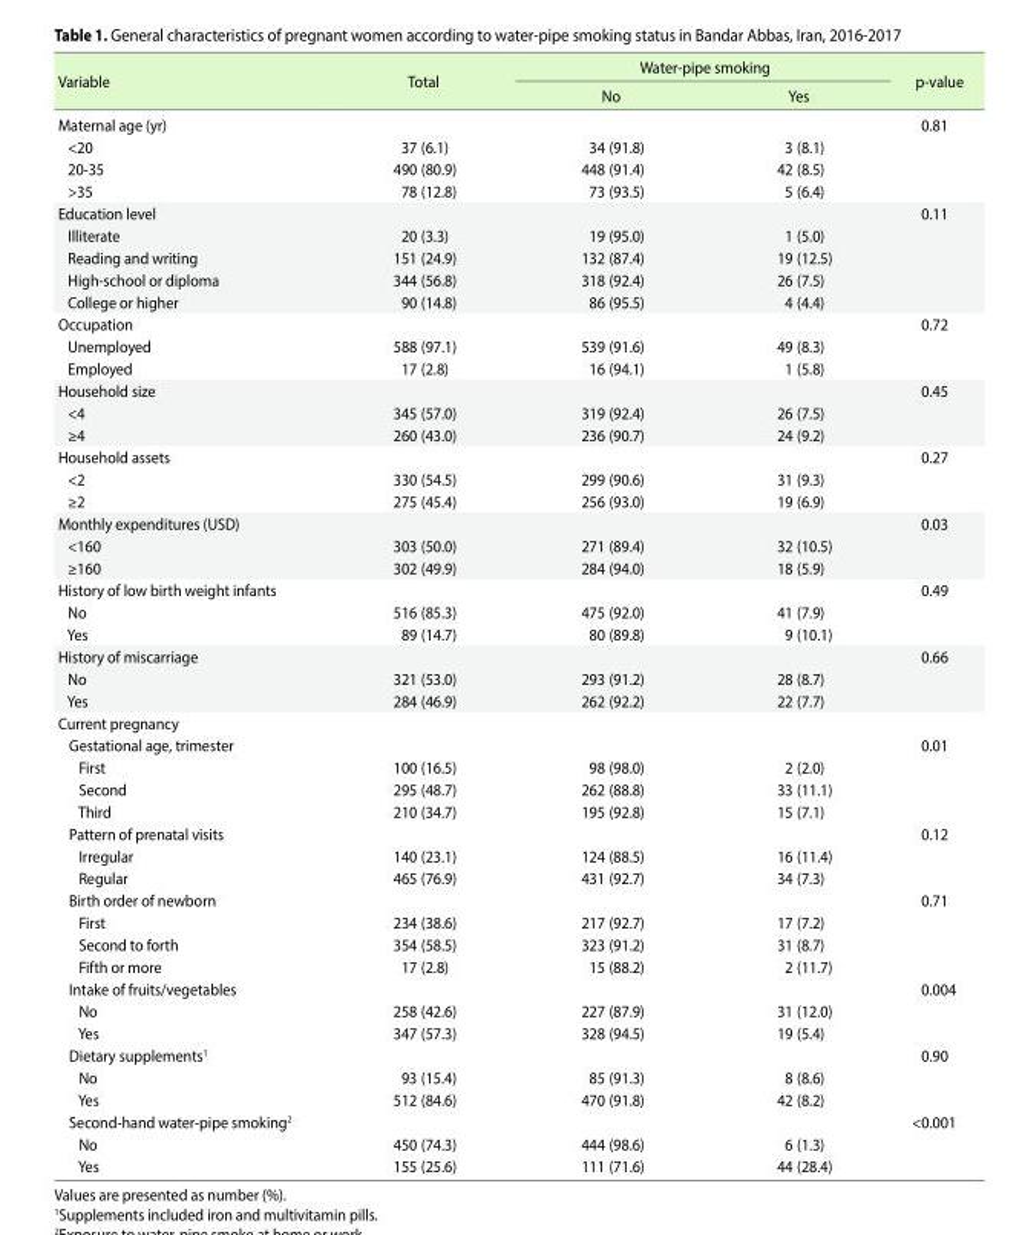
<table><thead><tr><td rowspan="2">Variable</td><td rowspan="2">Total</td><td colspan="2">Water-pipe smoking</td><td rowspan="2">p-value</td></tr><tr><td>No</td><td>Yes</td></tr></thead><tbody><tr><td>Maternal age (yr)</td><td></td><td></td><td></td><td>0.81</td></tr><tr><td>&lt;20</td><td>37 (6.1)</td><td>34 (91.8)</td><td>3 (8.1)</td><td></td></tr><tr><td>20-35</td><td>490 (80.9)</td><td>448 (91.4)</td><td>42 (8.5)</td><td></td></tr><tr><td>&gt;35</td><td>78 (12.8)</td><td>73 (93.5)</td><td>5 (6.4)</td><td></td></tr><tr><td>Education level</td><td></td><td></td><td></td><td>0.11</td></tr><tr><td>Illiterate</td><td>20 (3.3)</td><td>19 (95.0)</td><td>1 (5.0)</td><td></td></tr><tr><td>Reading and writing</td><td>151 (24.9)</td><td>132 (87.4)</td><td>19 (12.5)</td><td></td></tr><tr><td>High-school or diploma</td><td>344 (56.8)</td><td>318 (92.4)</td><td>26 (7.5)</td><td></td></tr><tr><td>College or higher</td><td>90 (14.8)</td><td>86 (95.5)</td><td>4 (4.4)</td><td></td></tr><tr><td>Occupation</td><td></td><td></td><td></td><td>0.72</td></tr><tr><td>Unemployed</td><td>588 (97.1)</td><td>539 (91.6)</td><td>49 (8.3)</td><td></td></tr><tr><td>Employed</td><td>17 (2.8)</td><td>16 (94.1)</td><td>1 (5.8)</td><td></td></tr><tr><td>Household size</td><td></td><td></td><td></td><td>0.45</td></tr><tr><td>&lt;4</td><td>345 (57.0)</td><td>319 (92.4)</td><td>26 (7.5)</td><td></td></tr><tr><td>≥4</td><td>260 (43.0)</td><td>236 (90.7)</td><td>24 (9.2)</td><td></td></tr><tr><td>Household assets</td><td></td><td></td><td></td><td>0.27</td></tr><tr><td>&lt;2</td><td>330 (54.5)</td><td>299 (90.6)</td><td>31 (9.3)</td><td></td></tr><tr><td>≥2</td><td>275 (45.4)</td><td>256 (93.0)</td><td>19 (6.9)</td><td></td></tr><tr><td>Monthly expenditures (USD)</td><td></td><td></td><td></td><td>0.03</td></tr><tr><td>&lt;160</td><td>303 (50.0)</td><td>271 (89.4)</td><td>32 (10.5)</td><td></td></tr><tr><td>≥160</td><td>302 (49.9)</td><td>284 (94.0)</td><td>18 (5.9)</td><td></td></tr><tr><td>History of low birth weight infants</td><td></td><td></td><td></td><td>0.49</td></tr><tr><td>No</td><td>516 (85.3)</td><td>475 (92.0)</td><td>41 (7.9)</td><td></td></tr><tr><td>Yes</td><td>89 (14.7)</td><td>80 (89.8)</td><td>9 (10.1)</td><td></td></tr><tr><td>History of miscarriage</td><td></td><td></td><td></td><td>0.66</td></tr><tr><td>No</td><td>321 (53.0)</td><td>293 (91.2)</td><td>28 (8.7)</td><td></td></tr><tr><td>Yes</td><td>284 (46.9)</td><td>262 (92.2)</td><td>22 (7.7)</td><td></td></tr><tr><td colspan="5">Current pregnancy</td></tr><tr><td>Gestational age, trimester</td><td></td><td></td><td></td><td>0.01</td></tr><tr><td>First</td><td>100 (16.5)</td><td>98 (98.0)</td><td>2 (2.0)</td><td></td></tr><tr><td>Second</td><td>295 (48.7)</td><td>262 (88.8)</td><td>33 (11.1)</td><td></td></tr><tr><td>Third</td><td>210 (34.7)</td><td>195 (92.8)</td><td>15 (7.1)</td><td></td></tr><tr><td>Pattern of prenatal visits</td><td></td><td></td><td></td><td>0.12</td></tr><tr><td>Irregular</td><td>140 (23.1)</td><td>124 (88.5)</td><td>16 (11.4)</td><td></td></tr><tr><td>Regular</td><td>465 (76.9)</td><td>431 (92.7)</td><td>34 (7.3)</td><td></td></tr><tr><td>Birth order of newborn</td><td></td><td></td><td></td><td>0.71</td></tr><tr><td>First</td><td>234 (38.6)</td><td>217 (92.7)</td><td>17 (7.2)</td><td></td></tr><tr><td>Second to forth</td><td>354 (58.5)</td><td>323 (91.2)</td><td>31 (8.7)</td><td></td></tr><tr><td>Fifth or more</td><td>17 (2.8)</td><td>15 (88.2)</td><td>2 (11.7)</td><td></td></tr><tr><td>Intake of fruits/vegetables</td><td></td><td></td><td></td><td>0.004</td></tr><tr><td>No</td><td>258 (42.6)</td><td>227 (87.9)</td><td>31 (12.0)</td><td></td></tr><tr><td>Yes</td><td>347 (57.3)</td><td>328 (94.5)</td><td>19 (5.4)</td><td></td></tr><tr><td>Dietary supplements<sup>1</sup></td><td></td><td></td><td></td><td>0.90</td></tr><tr><td>No</td><td>93 (15.4)</td><td>85 (91.3)</td><td>8 (8.6)</td><td></td></tr><tr><td>Yes</td><td>512 (84.6)</td><td>470 (91.8)</td><td>42 (8.2)</td><td></td></tr><tr><td>Second-hand water-pipe smoking<sup>2</sup></td><td></td><td></td><td></td><td>&lt;0.001</td></tr><tr><td>No</td><td>450 (74.3)</td><td>444 (98.6)</td><td>6 (1.3)</td><td></td></tr><tr><td>Yes</td><td>155 (25.6)</td><td>111 (71.6)</td><td>44 (28.4)</td><td></td></tr></tbody></table>